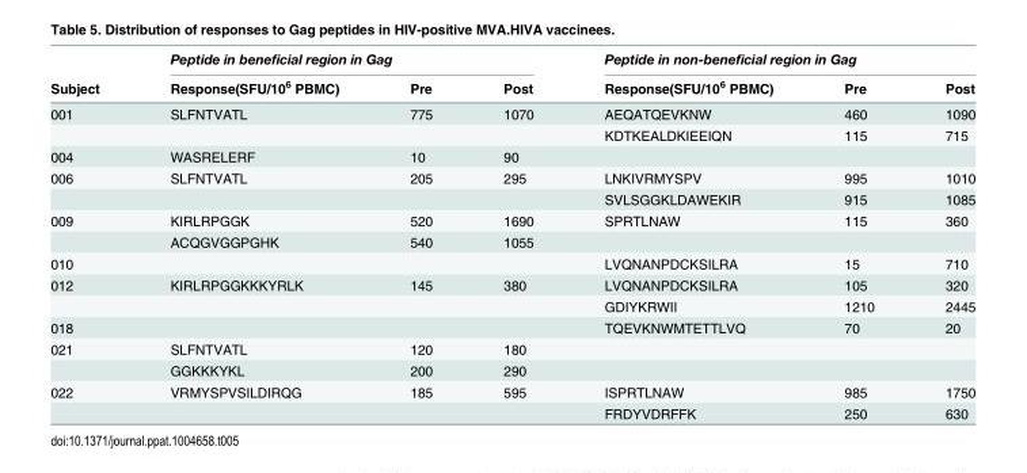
<table><thead><tr><td rowspan="2">Subject</td><td colspan="3">Peptide in beneficial region in Gag</td><td colspan="3">Peptide in non-beneficial region in Gag</td></tr><tr><td>Response(SFU/10<sup>6</sup> PBMC)</td><td>Pre</td><td>Post</td><td>Response(SFU/10<sup>6</sup> PBMC)</td><td>Pre</td><td>Post</td></tr></thead><tbody><tr><td rowspan="2">001</td><td>SLFNTVATL</td><td>775</td><td>1070</td><td>AEQATQEVKNW</td><td>460</td><td>1090</td></tr><tr><td></td><td></td><td></td><td>KDTKEALDKIEEIQN</td><td>115</td><td>715</td></tr><tr><td>004</td><td>WASRELERF</td><td>10</td><td>90</td><td></td><td></td><td></td></tr><tr><td rowspan="2">006</td><td>SLFNTVATL</td><td>205</td><td>295</td><td>LNKIVRMYSPV</td><td>995</td><td>1010</td></tr><tr><td></td><td></td><td></td><td>SVLSGGKLDAWEKIR</td><td>915</td><td>1085</td></tr><tr><td rowspan="2">009</td><td>KIRLRPGGK</td><td>520</td><td>1690</td><td>SPRTLNAW</td><td>115</td><td>360</td></tr><tr><td>ACQGVGGPGHK</td><td>540</td><td>1055</td><td></td><td></td><td></td></tr><tr><td>010</td><td></td><td></td><td></td><td>LVQNANPDCKSILRA</td><td>15</td><td>710</td></tr><tr><td rowspan="2">012</td><td>KIRLRPGGKKKYRLK</td><td>145</td><td>380</td><td>LVQNANPDCKSILRA</td><td>105</td><td>320</td></tr><tr><td></td><td></td><td></td><td>GDIYKRWII</td><td>1210</td><td>2445</td></tr><tr><td>018</td><td></td><td></td><td></td><td>TQEVKNWMTETTLVQ</td><td>70</td><td>20</td></tr><tr><td rowspan="2">021</td><td>SLFNTVATL</td><td>120</td><td>180</td><td></td><td></td><td></td></tr><tr><td>GGKKKYKL</td><td>200</td><td>290</td><td></td><td></td><td></td></tr><tr><td rowspan="2">022</td><td>VRMYSPVSILDIRQG</td><td>185</td><td>595</td><td>ISPRTLNAW</td><td>985</td><td>1750</td></tr><tr><td></td><td></td><td></td><td>FRDYVDRFFK</td><td>250</td><td>630</td></tr></tbody></table>